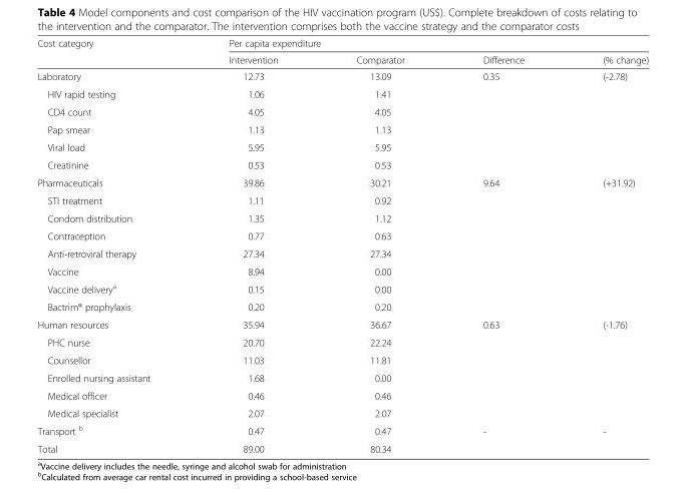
<table><thead><tr><td rowspan="2">Cost category</td><td colspan="4">Per capita expenditure</td></tr><tr><td>Intervention</td><td>Comparator</td><td>Difference</td><td>(% change)</td></tr></thead><tbody><tr><td>Laboratory</td><td>12.73</td><td>13.09</td><td>0.35</td><td>(-2.78)</td></tr><tr><td>HIV rapid testing</td><td>1.06</td><td>1.41</td><td></td><td></td></tr><tr><td>CD4 count</td><td>4.05</td><td>4.05</td><td></td><td></td></tr><tr><td>Pap smear</td><td>1.13</td><td>1.13</td><td></td><td></td></tr><tr><td>Viral load</td><td>5.95</td><td>5.95</td><td></td><td></td></tr><tr><td>Creatinine</td><td>0.53</td><td>0.53</td><td></td><td></td></tr><tr><td>Pharmaceuticals</td><td>39.86</td><td>30.21</td><td>9.64</td><td>(+31.92)</td></tr><tr><td>STI treatment</td><td>1.11</td><td>0.92</td><td></td><td></td></tr><tr><td>Condom distribution</td><td>1.35</td><td>1.12</td><td></td><td></td></tr><tr><td>Contraception</td><td>0.77</td><td>0.63</td><td></td><td></td></tr><tr><td>Anti-retroviral therapy</td><td>27.34</td><td>27.34</td><td></td><td></td></tr><tr><td>Vaccine</td><td>8.94</td><td>0.00</td><td></td><td></td></tr><tr><td>Vaccine delivery<sup>a</sup></td><td>0.15</td><td>0.00</td><td></td><td></td></tr><tr><td>Bactrim® prophylaxis</td><td>0.20</td><td>0.20</td><td></td><td></td></tr><tr><td>Human resources</td><td>35.94</td><td>36.67</td><td>0.63</td><td>(-1.76)</td></tr><tr><td>PHC nurse</td><td>20.70</td><td>22.24</td><td></td><td></td></tr><tr><td>Counsellor</td><td>11.03</td><td>11.81</td><td></td><td></td></tr><tr><td>Enrolled nursing assistant</td><td>1.68</td><td>0.00</td><td></td><td></td></tr><tr><td>Medical officer</td><td>0.46</td><td>0.46</td><td></td><td></td></tr><tr><td>Medical specialist</td><td>2.07</td><td>2.07</td><td></td><td></td></tr><tr><td>Transport <sup>b</sup></td><td>0.47</td><td>0.47</td><td>-</td><td>-</td></tr><tr><td>Total</td><td>89.00</td><td>80.34</td><td></td><td></td></tr></tbody></table>